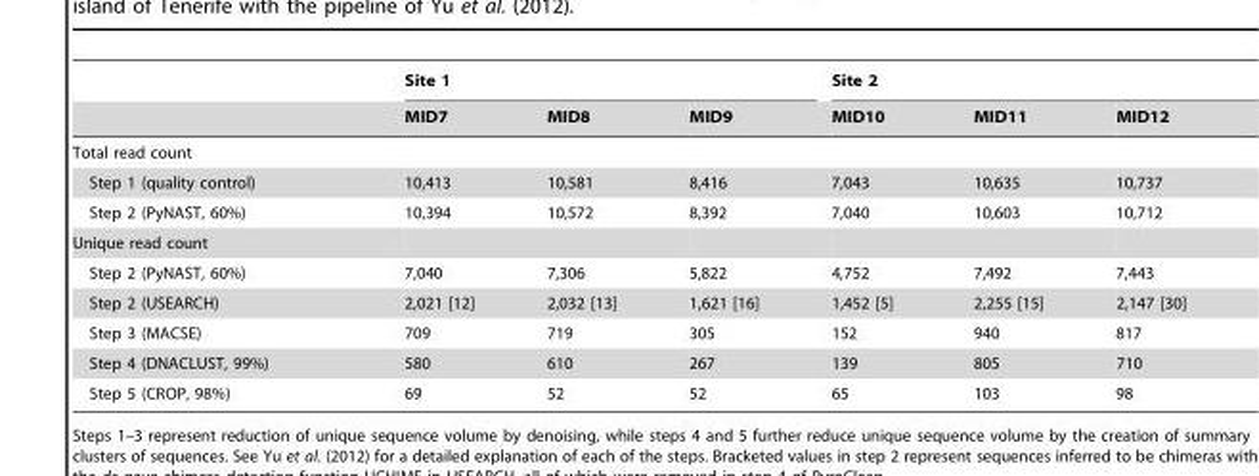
<table><thead><tr><td rowspan="2"></td><td colspan="3">Site 1</td><td colspan="3">Site 2</td></tr><tr><td>MID7</td><td>MID8</td><td>MID9</td><td>MID10</td><td>MID11</td><td>MID12</td></tr></thead><tbody><tr><td colspan="7">Total read count</td></tr><tr><td>Step 1 (quality control)</td><td>10,413</td><td>10,581</td><td>8,416</td><td>7,043</td><td>10,635</td><td>10,737</td></tr><tr><td>Step 2 (PyNAST, 60%)</td><td>10,394</td><td>10,572</td><td>8,392</td><td>7,040</td><td>10,603</td><td>10,712</td></tr><tr><td colspan="7">Unique read count</td></tr><tr><td>Step 2 (PyNAST, 60%)</td><td>7,040</td><td>7,306</td><td>5,822</td><td>4,752</td><td>7,492</td><td>7,443</td></tr><tr><td>Step 2 (USEARCH)</td><td>2,021 [12]</td><td>2,032 [13]</td><td>1,621 [16]</td><td>1,452 [5]</td><td>2,255 [15]</td><td>2,147 [30]</td></tr><tr><td>Step 3 (MACSE)</td><td>709</td><td>719</td><td>305</td><td>152</td><td>940</td><td>817</td></tr><tr><td>Step 4 (DNACLUST, 99%)</td><td>580</td><td>610</td><td>267</td><td>139</td><td>805</td><td>710</td></tr><tr><td>Step 5 (CROP, 98%)</td><td>69</td><td>52</td><td>52</td><td>65</td><td>103</td><td>98</td></tr></tbody></table>